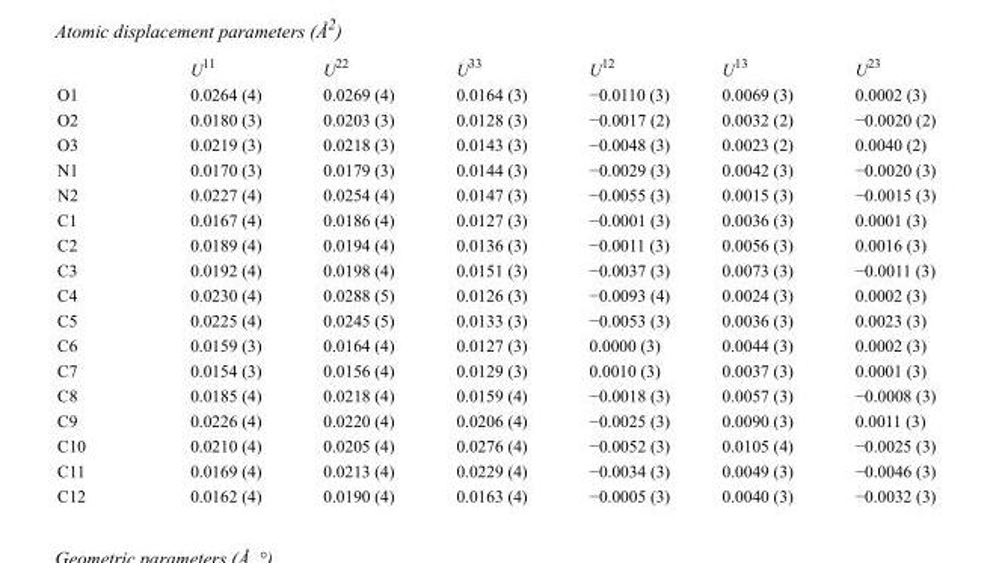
<table><thead><tr><td></td><td>U<sup>11</sup></td><td>U<sup>22</sup></td><td>U<sup>33</sup></td><td>U<sup>12</sup></td><td>U<sup>13</sup></td><td>U<sup>23</sup></td></tr></thead><tbody><tr><td>O1</td><td>0.0264 (4)</td><td>0.0269 (4)</td><td>0.0164 (3)</td><td>−0.0110 (3)</td><td>0.0069 (3)</td><td>0.0002 (3)</td></tr><tr><td>O2</td><td>0.0180 (3)</td><td>0.0203 (3)</td><td>0.0128 (3)</td><td>−0.0017 (2)</td><td>0.0032 (2)</td><td>−0.0020 (2)</td></tr><tr><td>O3</td><td>0.0219 (3)</td><td>0.0218 (3)</td><td>0.0143 (3)</td><td>−0.0048 (3)</td><td>0.0023 (2)</td><td>0.0040 (2)</td></tr><tr><td>N1</td><td>0.0170 (3)</td><td>0.0179 (3)</td><td>0.0144 (3)</td><td>−0.0029 (3)</td><td>0.0042 (3)</td><td>−0.0020 (3)</td></tr><tr><td>N2</td><td>0.0227 (4)</td><td>0.0254 (4)</td><td>0.0147 (3)</td><td>−0.0055 (3)</td><td>0.0015 (3)</td><td>−0.0015 (3)</td></tr><tr><td>C1</td><td>0.0167 (4)</td><td>0.0186 (4)</td><td>0.0127 (3)</td><td>−0.0001 (3)</td><td>0.0036 (3)</td><td>0.0001 (3)</td></tr><tr><td>C2</td><td>0.0189 (4)</td><td>0.0194 (4)</td><td>0.0136 (3)</td><td>−0.0011 (3)</td><td>0.0056 (3)</td><td>0.0016 (3)</td></tr><tr><td>C3</td><td>0.0192 (4)</td><td>0.0198 (4)</td><td>0.0151 (3)</td><td>−0.0037 (3)</td><td>0.0073 (3)</td><td>−0.0011 (3)</td></tr><tr><td>C4</td><td>0.0230 (4)</td><td>0.0288 (5)</td><td>0.0126 (3)</td><td>−0.0093 (4)</td><td>0.0024 (3)</td><td>0.0002 (3)</td></tr><tr><td>C5</td><td>0.0225 (4)</td><td>0.0245 (5)</td><td>0.0133 (3)</td><td>−0.0053 (3)</td><td>0.0036 (3)</td><td>0.0023 (3)</td></tr><tr><td>C6</td><td>0.0159 (3)</td><td>0.0164 (4)</td><td>0.0127 (3)</td><td>0.0000 (3)</td><td>0.0044 (3)</td><td>0.0002 (3)</td></tr><tr><td>C7</td><td>0.0154 (3)</td><td>0.0156 (4)</td><td>0.0129 (3)</td><td>0.0010 (3)</td><td>0.0037 (3)</td><td>0.0001 (3)</td></tr><tr><td>C8</td><td>0.0185 (4)</td><td>0.0218 (4)</td><td>0.0159 (4)</td><td>−0.0018 (3)</td><td>0.0057 (3)</td><td>−0.0008 (3)</td></tr><tr><td>C9</td><td>0.0226 (4)</td><td>0.0220 (4)</td><td>0.0206 (4)</td><td>−0.0025 (3)</td><td>0.0090 (3)</td><td>0.0011 (3)</td></tr><tr><td>C10</td><td>0.0210 (4)</td><td>0.0205 (4)</td><td>0.0276 (4)</td><td>−0.0052 (3)</td><td>0.0105 (4)</td><td>−0.0025 (3)</td></tr><tr><td>C11</td><td>0.0169 (4)</td><td>0.0213 (4)</td><td>0.0229 (4)</td><td>−0.0034 (3)</td><td>0.0049 (3)</td><td>−0.0046 (3)</td></tr><tr><td>C12</td><td>0.0162 (4)</td><td>0.0190 (4)</td><td>0.0163 (4)</td><td>−0.0005 (3)</td><td>0.0040 (3)</td><td>−0.0032 (3)</td></tr></tbody></table>